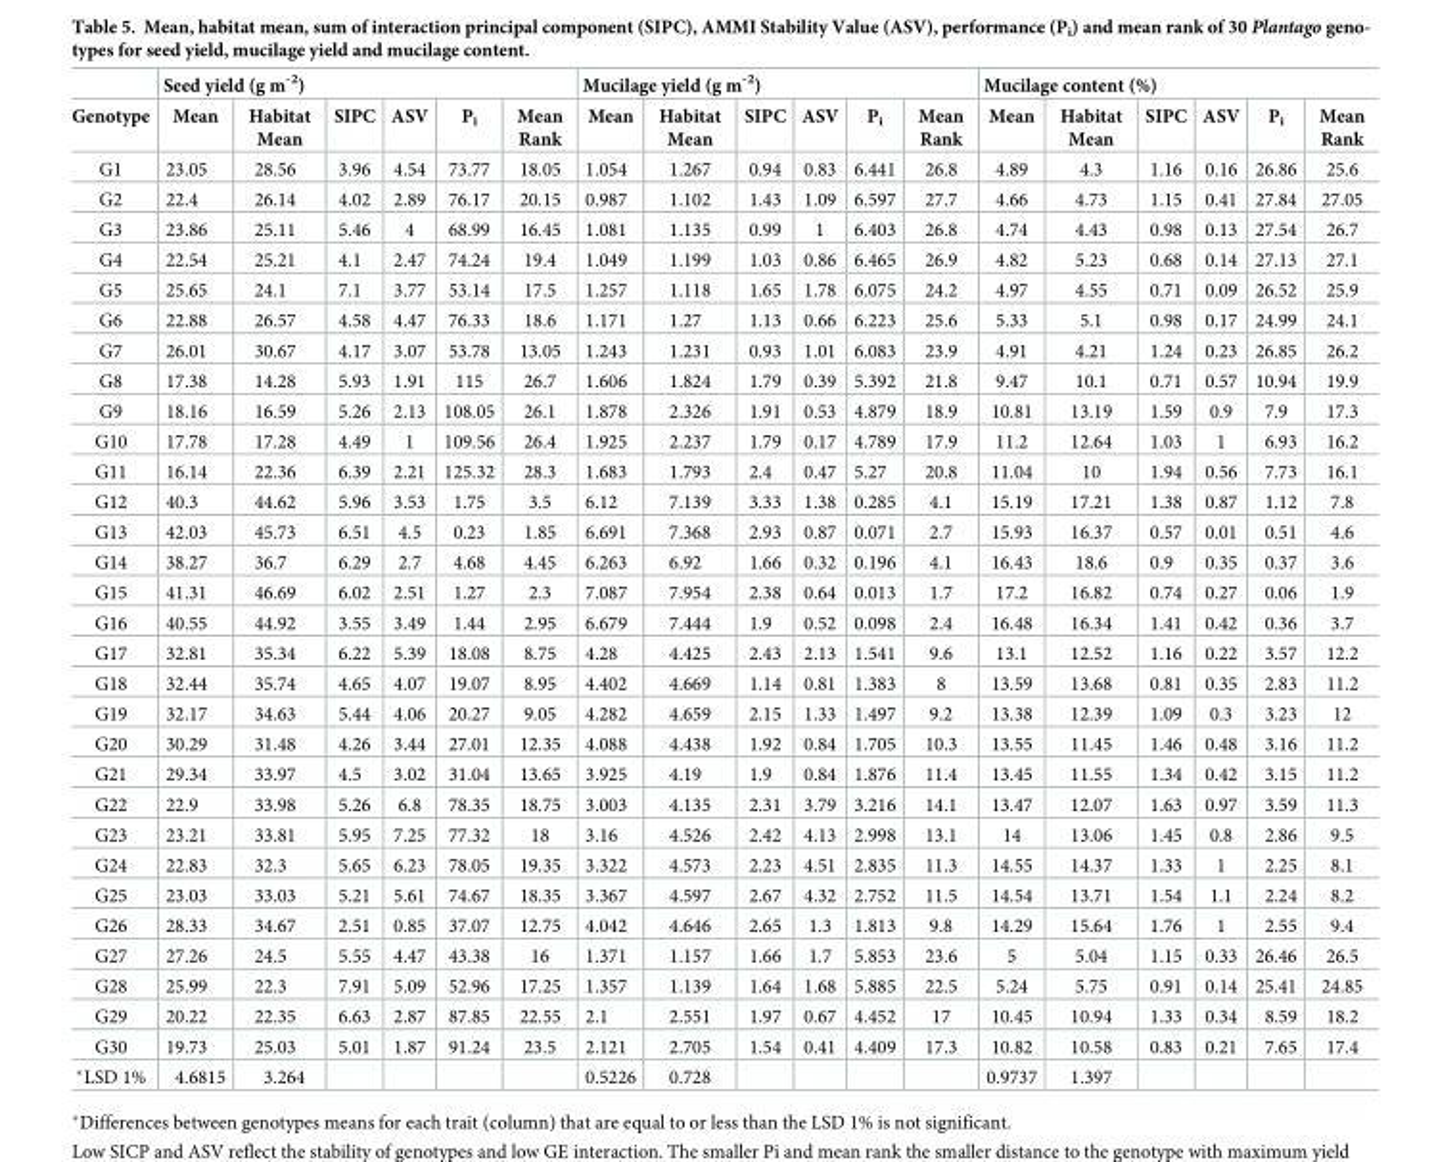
<table><thead><tr><td rowspan="2">Genotype</td><td colspan="6">Seed yield (g m<sup>-2</sup>)</td><td colspan="6">Mucilage yield (g m<sup>-2</sup>)</td><td colspan="6">Mucilage content (%)</td></tr><tr><td>Mean</td><td>Habitat Mean</td><td>SIPC</td><td>ASV</td><td>P<sub>i</sub></td><td>Mean Rank</td><td>Mean</td><td>Habitat Mean</td><td>SIPC</td><td>ASV</td><td>P<sub>i</sub></td><td>Mean Rank</td><td>Mean</td><td>Habitat Mean</td><td>SIPC</td><td>ASV</td><td>P<sub>i</sub></td><td>Mean Rank</td></tr></thead><tbody><tr><td>G1</td><td>23.05</td><td>28.56</td><td>3.96</td><td>4.54</td><td>73.77</td><td>18.05</td><td>1.054</td><td>1.267</td><td>0.94</td><td>0.83</td><td>6.441</td><td>26.8</td><td>4.89</td><td>4.3</td><td>1.16</td><td>0.16</td><td>26.86</td><td>25.6</td></tr><tr><td>G2</td><td>22.4</td><td>26.14</td><td>4.02</td><td>2.89</td><td>76.17</td><td>20.15</td><td>0.987</td><td>1.102</td><td>1.43</td><td>1.09</td><td>6.597</td><td>27.7</td><td>4.66</td><td>4.73</td><td>1.15</td><td>0.41</td><td>27.84</td><td>27.05</td></tr><tr><td>G3</td><td>23.86</td><td>25.11</td><td>5.46</td><td>4</td><td>68.99</td><td>16.45</td><td>1.081</td><td>1.135</td><td>0.99</td><td>1</td><td>6.403</td><td>26.8</td><td>4.74</td><td>4.43</td><td>0.98</td><td>0.13</td><td>27.54</td><td>26.7</td></tr><tr><td>G4</td><td>22.54</td><td>25.21</td><td>4.1</td><td>2.47</td><td>74.24</td><td>19.4</td><td>1.049</td><td>1.199</td><td>1.03</td><td>0.86</td><td>6.465</td><td>26.9</td><td>4.82</td><td>5.23</td><td>0.68</td><td>0.14</td><td>27.13</td><td>27.1</td></tr><tr><td>G5</td><td>25.65</td><td>24.1</td><td>7.1</td><td>3.77</td><td>53.14</td><td>17.5</td><td>1.257</td><td>1.118</td><td>1.65</td><td>1.78</td><td>6.075</td><td>24.2</td><td>4.97</td><td>4.55</td><td>0.71</td><td>0.09</td><td>26.52</td><td>25.9</td></tr><tr><td>G6</td><td>22.88</td><td>26.57</td><td>4.58</td><td>4.47</td><td>76.33</td><td>18.6</td><td>1.171</td><td>1.27</td><td>1.13</td><td>0.66</td><td>6.223</td><td>25.6</td><td>5.33</td><td>5.1</td><td>0.98</td><td>0.17</td><td>24.99</td><td>24.1</td></tr><tr><td>G7</td><td>26.01</td><td>30.67</td><td>4.17</td><td>3.07</td><td>53.78</td><td>13.05</td><td>1.243</td><td>1.231</td><td>0.93</td><td>1.01</td><td>6.083</td><td>23.9</td><td>4.91</td><td>4.21</td><td>1.24</td><td>0.23</td><td>26.85</td><td>26.2</td></tr><tr><td>G8</td><td>17.38</td><td>14.28</td><td>5.93</td><td>1.91</td><td>115</td><td>26.7</td><td>1.606</td><td>1.824</td><td>1.79</td><td>0.39</td><td>5.392</td><td>21.8</td><td>9.47</td><td>10.1</td><td>0.71</td><td>0.57</td><td>10.94</td><td>19.9</td></tr><tr><td>G9</td><td>18.16</td><td>16.59</td><td>5.26</td><td>2.13</td><td>108.05</td><td>26.1</td><td>1.878</td><td>2.326</td><td>1.91</td><td>0.53</td><td>4.879</td><td>18.9</td><td>10.81</td><td>13.19</td><td>1.59</td><td>0.9</td><td>7.9</td><td>17.3</td></tr><tr><td>G10</td><td>17.78</td><td>17.28</td><td>4.49</td><td>1</td><td>109.56</td><td>26.4</td><td>1.925</td><td>2.237</td><td>1.79</td><td>0.17</td><td>4.789</td><td>17.9</td><td>11.2</td><td>12.64</td><td>1.03</td><td>1</td><td>6.93</td><td>16.2</td></tr><tr><td>G11</td><td>16.14</td><td>22.36</td><td>6.39</td><td>2.21</td><td>125.32</td><td>28.3</td><td>1.683</td><td>1.793</td><td>2.4</td><td>0.47</td><td>5.27</td><td>20.8</td><td>11.04</td><td>10</td><td>1.94</td><td>0.56</td><td>7.73</td><td>16.1</td></tr><tr><td>G12</td><td>40.3</td><td>44.62</td><td>5.96</td><td>3.53</td><td>1.75</td><td>3.5</td><td>6.12</td><td>7.139</td><td>3.33</td><td>1.38</td><td>0.285</td><td>4.1</td><td>15.19</td><td>17.21</td><td>1.38</td><td>0.87</td><td>1.12</td><td>7.8</td></tr><tr><td>G13</td><td>42.03</td><td>45.73</td><td>6.51</td><td>4.5</td><td>0.23</td><td>1.85</td><td>6.691</td><td>7.368</td><td>2.93</td><td>0.87</td><td>0.071</td><td>2.7</td><td>15.93</td><td>16.37</td><td>0.57</td><td>0.01</td><td>0.51</td><td>4.6</td></tr><tr><td>G14</td><td>38.27</td><td>36.7</td><td>6.29</td><td>2.7</td><td>4.68</td><td>4.45</td><td>6.263</td><td>6.92</td><td>1.66</td><td>0.32</td><td>0.196</td><td>4.1</td><td>16.43</td><td>18.6</td><td>0.9</td><td>0.35</td><td>0.37</td><td>3.6</td></tr><tr><td>G15</td><td>41.31</td><td>46.69</td><td>6.02</td><td>2.51</td><td>1.27</td><td>2.3</td><td>7.087</td><td>7.954</td><td>2.38</td><td>0.64</td><td>0.013</td><td>1.7</td><td>17.2</td><td>16.82</td><td>0.74</td><td>0.27</td><td>0.06</td><td>1.9</td></tr><tr><td>G16</td><td>40.55</td><td>44.92</td><td>3.55</td><td>3.49</td><td>1.44</td><td>2.95</td><td>6.679</td><td>7.444</td><td>1.9</td><td>0.52</td><td>0.098</td><td>2.4</td><td>16.48</td><td>16.34</td><td>1.41</td><td>0.42</td><td>0.36</td><td>3.7</td></tr><tr><td>G17</td><td>32.81</td><td>35.34</td><td>6.22</td><td>5.39</td><td>18.08</td><td>8.75</td><td>4.28</td><td>4.425</td><td>2.43</td><td>2.13</td><td>1.541</td><td>9.6</td><td>13.1</td><td>12.52</td><td>1.16</td><td>0.22</td><td>3.57</td><td>12.2</td></tr><tr><td>G18</td><td>32.44</td><td>35.74</td><td>4.65</td><td>4.07</td><td>19.07</td><td>8.95</td><td>4.402</td><td>4.669</td><td>1.14</td><td>0.81</td><td>1.383</td><td>8</td><td>13.59</td><td>13.68</td><td>0.81</td><td>0.35</td><td>2.83</td><td>11.2</td></tr><tr><td>G19</td><td>32.17</td><td>34.63</td><td>5.44</td><td>4.06</td><td>20.27</td><td>9.05</td><td>4.282</td><td>4.659</td><td>2.15</td><td>1.33</td><td>1.497</td><td>9.2</td><td>13.38</td><td>12.39</td><td>1.09</td><td>0.3</td><td>3.23</td><td>12</td></tr><tr><td>G20</td><td>30.29</td><td>31.48</td><td>4.26</td><td>3.44</td><td>27.01</td><td>12.35</td><td>4.088</td><td>4.438</td><td>1.92</td><td>0.84</td><td>1.705</td><td>10.3</td><td>13.55</td><td>11.45</td><td>1.46</td><td>0.48</td><td>3.16</td><td>11.2</td></tr><tr><td>G21</td><td>29.34</td><td>33.97</td><td>4.5</td><td>3.02</td><td>31.04</td><td>13.65</td><td>3.925</td><td>4.19</td><td>1.9</td><td>0.84</td><td>1.876</td><td>11.4</td><td>13.45</td><td>11.55</td><td>1.34</td><td>0.42</td><td>3.15</td><td>11.2</td></tr><tr><td>G22</td><td>22.9</td><td>33.98</td><td>5.26</td><td>6.8</td><td>78.35</td><td>18.75</td><td>3.003</td><td>4.135</td><td>2.31</td><td>3.79</td><td>3.216</td><td>14.1</td><td>13.47</td><td>12.07</td><td>1.63</td><td>0.97</td><td>3.59</td><td>11.3</td></tr><tr><td>G23</td><td>23.21</td><td>33.81</td><td>5.95</td><td>7.25</td><td>77.32</td><td>18</td><td>3.16</td><td>4.526</td><td>2.42</td><td>4.13</td><td>2.998</td><td>13.1</td><td>14</td><td>13.06</td><td>1.45</td><td>0.8</td><td>2.86</td><td>9.5</td></tr><tr><td>G24</td><td>22.83</td><td>32.3</td><td>5.65</td><td>6.23</td><td>78.05</td><td>19.35</td><td>3.322</td><td>4.573</td><td>2.23</td><td>4.51</td><td>2.835</td><td>11.3</td><td>14.55</td><td>14.37</td><td>1.33</td><td>1</td><td>2.25</td><td>8.1</td></tr><tr><td>G25</td><td>23.03</td><td>33.03</td><td>5.21</td><td>5.61</td><td>74.67</td><td>18.35</td><td>3.367</td><td>4.597</td><td>2.67</td><td>4.32</td><td>2.752</td><td>11.5</td><td>14.54</td><td>13.71</td><td>1.54</td><td>1.1</td><td>2.24</td><td>8.2</td></tr><tr><td>G26</td><td>28.33</td><td>34.67</td><td>2.51</td><td>0.85</td><td>37.07</td><td>12.75</td><td>4.042</td><td>4.646</td><td>2.65</td><td>1.3</td><td>1.813</td><td>9.8</td><td>14.29</td><td>15.64</td><td>1.76</td><td>1</td><td>2.55</td><td>9.4</td></tr><tr><td>G27</td><td>27.26</td><td>24.5</td><td>5.55</td><td>4.47</td><td>43.38</td><td>16</td><td>1.371</td><td>1.157</td><td>1.66</td><td>1.7</td><td>5.853</td><td>23.6</td><td>5</td><td>5.04</td><td>1.15</td><td>0.33</td><td>26.46</td><td>26.5</td></tr><tr><td>G28</td><td>25.99</td><td>22.3</td><td>7.91</td><td>5.09</td><td>52.96</td><td>17.25</td><td>1.357</td><td>1.139</td><td>1.64</td><td>1.68</td><td>5.885</td><td>22.5</td><td>5.24</td><td>5.75</td><td>0.91</td><td>0.14</td><td>25.41</td><td>24.85</td></tr><tr><td>G29</td><td>20.22</td><td>22.35</td><td>6.63</td><td>2.87</td><td>87.85</td><td>22.55</td><td>2.1</td><td>2.551</td><td>1.97</td><td>0.67</td><td>4.452</td><td>17</td><td>10.45</td><td>10.94</td><td>1.33</td><td>0.34</td><td>8.59</td><td>18.2</td></tr><tr><td>G30</td><td>19.73</td><td>25.03</td><td>5.01</td><td>1.87</td><td>91.24</td><td>23.5</td><td>2.121</td><td>2.705</td><td>1.54</td><td>0.41</td><td>4.409</td><td>17.3</td><td>10.82</td><td>10.58</td><td>0.83</td><td>0.21</td><td>7.65</td><td>17.4</td></tr><tr><td>*LSD 1%</td><td>4.6815</td><td>3.264</td><td></td><td></td><td></td><td></td><td>0.5226</td><td>0.728</td><td></td><td></td><td></td><td></td><td>0.9737</td><td>1.397</td><td></td><td></td><td></td><td></td></tr></tbody></table>